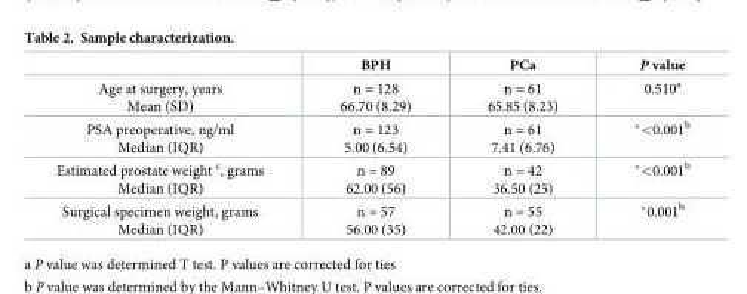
<table><thead><tr><td></td><td>BPH</td><td>PCa</td><td>P value</td></tr></thead><tbody><tr><td>Age at surgery, years Mean (SD)</td><td>n = 128 66.70 (8.29)</td><td>n = 61 65.85 (8.23)</td><td>0.510<sup>a</sup></td></tr><tr><td>PSA preoperative, ng/ml Median (IQR)</td><td>n = 123 5.00 (6.54)</td><td>n = 61 7.41 (6.76)</td><td>*&lt;0.001<sup>b</sup></td></tr><tr><td>Estimated prostate weight <sup>c</sup>, grams Median (IQR)</td><td>n = 89 62.00 (56)</td><td>n = 42 36.50 (25)</td><td>*&lt;0.001<sup>b</sup></td></tr><tr><td>Surgical specimen weight, grams Median (IQR)</td><td>n = 57 56.00 (35)</td><td>n = 55 42.00 (22)</td><td>*0.001<sup>b</sup></td></tr></tbody></table>